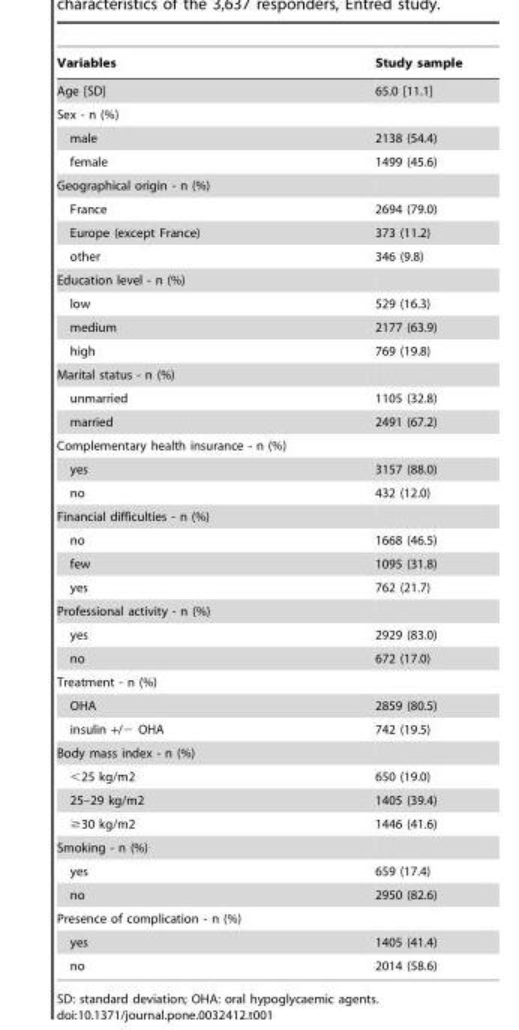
<table><thead><tr><td>Variables</td><td>Study sample</td></tr></thead><tbody><tr><td>Age [SD]</td><td>65.0 [11.1]</td></tr><tr><td colspan="2">Sex - n (%)</td></tr><tr><td>male</td><td>2138 (54.4)</td></tr><tr><td>female</td><td>1499 (45.6)</td></tr><tr><td colspan="2">Geographical origin - n (%)</td></tr><tr><td>France</td><td>2694 (79.0)</td></tr><tr><td>Europe (except France)</td><td>373 (11.2)</td></tr><tr><td>other</td><td>346 (9.8)</td></tr><tr><td colspan="2">Education level - n (%)</td></tr><tr><td>low</td><td>529 (16.3)</td></tr><tr><td>medium</td><td>2177 (63.9)</td></tr><tr><td>high</td><td>769 (19.8)</td></tr><tr><td colspan="2">Marital status - n (%)</td></tr><tr><td>unmarried</td><td>1105 (32.8)</td></tr><tr><td>married</td><td>2491 (67.2)</td></tr><tr><td colspan="2">Complementary health insurance - n (%)</td></tr><tr><td>yes</td><td>3157 (88.0)</td></tr><tr><td>no</td><td>432 (12.0)</td></tr><tr><td colspan="2">Financial difficulties - n (%)</td></tr><tr><td>no</td><td>1668 (46.5)</td></tr><tr><td>few</td><td>1095 (31.8)</td></tr><tr><td>yes</td><td>762 (21.7)</td></tr><tr><td colspan="2">Professional activity - n (%)</td></tr><tr><td>yes</td><td>2929 (83.0)</td></tr><tr><td>no</td><td>672 (17.0)</td></tr><tr><td colspan="2">Treatment - n (%)</td></tr><tr><td>OHA</td><td>2859 (80.5)</td></tr><tr><td>insulin +/− OHA</td><td>742 (19.5)</td></tr><tr><td colspan="2">Body mass index - n (%)</td></tr><tr><td>&lt;25 kg/m2</td><td>650 (19.0)</td></tr><tr><td>25–29 kg/m2</td><td>1405 (39.4)</td></tr><tr><td>≥30 kg/m2</td><td>1446 (41.6)</td></tr><tr><td colspan="2">Smoking - n (%)</td></tr><tr><td>yes</td><td>659 (17.4)</td></tr><tr><td>no</td><td>2950 (82.6)</td></tr><tr><td colspan="2">Presence of complication - n (%)</td></tr><tr><td>yes</td><td>1405 (41.4)</td></tr><tr><td>no</td><td>2014 (58.6)</td></tr></tbody></table>